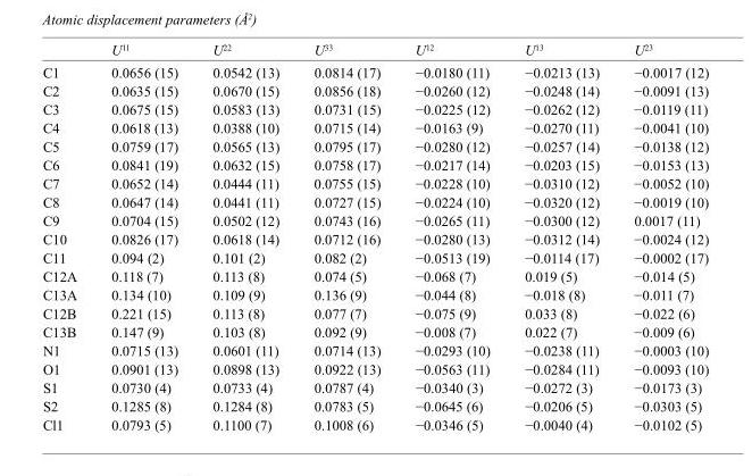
<table><thead><tr><td></td><td>U<sup>11</sup></td><td>U<sup>22</sup></td><td>U<sup>33</sup></td><td>U<sup>12</sup></td><td>U<sup>13</sup></td><td>U<sup>23</sup></td></tr></thead><tbody><tr><td>C1</td><td>0.0656 (15)</td><td>0.0542 (13)</td><td>0.0814 (17)</td><td>−0.0180 (11)</td><td>−0.0213 (13)</td><td>−0.0017 (12)</td></tr><tr><td>C2</td><td>0.0635 (15)</td><td>0.0670 (15)</td><td>0.0856 (18)</td><td>−0.0260 (12)</td><td>−0.0248 (14)</td><td>−0.0091 (13)</td></tr><tr><td>C3</td><td>0.0675 (15)</td><td>0.0583 (13)</td><td>0.0731 (15)</td><td>−0.0225 (12)</td><td>−0.0262 (12)</td><td>−0.0119 (11)</td></tr><tr><td>C4</td><td>0.0618 (13)</td><td>0.0388 (10)</td><td>0.0715 (14)</td><td>−0.0163 (9)</td><td>−0.0270 (11)</td><td>−0.0041 (10)</td></tr><tr><td>C5</td><td>0.0759 (17)</td><td>0.0565 (13)</td><td>0.0795 (17)</td><td>−0.0280 (12)</td><td>−0.0257 (14)</td><td>−0.0138 (12)</td></tr><tr><td>C6</td><td>0.0841 (19)</td><td>0.0632 (15)</td><td>0.0758 (17)</td><td>−0.0217 (14)</td><td>−0.0203 (15)</td><td>−0.0153 (13)</td></tr><tr><td>C7</td><td>0.0652 (14)</td><td>0.0444 (11)</td><td>0.0755 (15)</td><td>−0.0228 (10)</td><td>−0.0310 (12)</td><td>−0.0052 (10)</td></tr><tr><td>C8</td><td>0.0647 (14)</td><td>0.0441 (11)</td><td>0.0727 (15)</td><td>−0.0224 (10)</td><td>−0.0320 (12)</td><td>−0.0019 (10)</td></tr><tr><td>C9</td><td>0.0704 (15)</td><td>0.0502 (12)</td><td>0.0743 (16)</td><td>−0.0265 (11)</td><td>−0.0300 (12)</td><td>0.0017 (11)</td></tr><tr><td>C10</td><td>0.0826 (17)</td><td>0.0618 (14)</td><td>0.0712 (16)</td><td>−0.0280 (13)</td><td>−0.0312 (14)</td><td>−0.0024 (12)</td></tr><tr><td>C11</td><td>0.094 (2)</td><td>0.101 (2)</td><td>0.082 (2)</td><td>−0.0513 (19)</td><td>−0.0114 (17)</td><td>−0.0002 (17)</td></tr><tr><td>C12A</td><td>0.118 (7)</td><td>0.113 (8)</td><td>0.074 (5)</td><td>−0.068 (7)</td><td>0.019 (5)</td><td>−0.014 (5)</td></tr><tr><td>C13A</td><td>0.134 (10)</td><td>0.109 (9)</td><td>0.136 (9)</td><td>−0.044 (8)</td><td>−0.018 (8)</td><td>−0.011 (7)</td></tr><tr><td>C12B</td><td>0.221 (15)</td><td>0.113 (8)</td><td>0.077 (7)</td><td>−0.075 (9)</td><td>0.033 (8)</td><td>−0.022 (6)</td></tr><tr><td>C13B</td><td>0.147 (9)</td><td>0.103 (8)</td><td>0.092 (9)</td><td>−0.008 (7)</td><td>0.022 (7)</td><td>−0.009 (6)</td></tr><tr><td>N1</td><td>0.0715 (13)</td><td>0.0601 (11)</td><td>0.0714 (13)</td><td>−0.0293 (10)</td><td>−0.0238 (11)</td><td>−0.0003 (10)</td></tr><tr><td>O1</td><td>0.0901 (13)</td><td>0.0898 (13)</td><td>0.0922 (13)</td><td>−0.0563 (11)</td><td>−0.0284 (11)</td><td>−0.0093 (10)</td></tr><tr><td>S1</td><td>0.0730 (4)</td><td>0.0733 (4)</td><td>0.0787 (4)</td><td>−0.0340 (3)</td><td>−0.0272 (3)</td><td>−0.0173 (3)</td></tr><tr><td>S2</td><td>0.1285 (8)</td><td>0.1284 (8)</td><td>0.0783 (5)</td><td>−0.0645 (6)</td><td>−0.0206 (5)</td><td>−0.0303 (5)</td></tr><tr><td>Cl1</td><td>0.0793 (5)</td><td>0.1100 (7)</td><td>0.1008 (6)</td><td>−0.0346 (5)</td><td>−0.0040 (4)</td><td>−0.0102 (5)</td></tr></tbody></table>